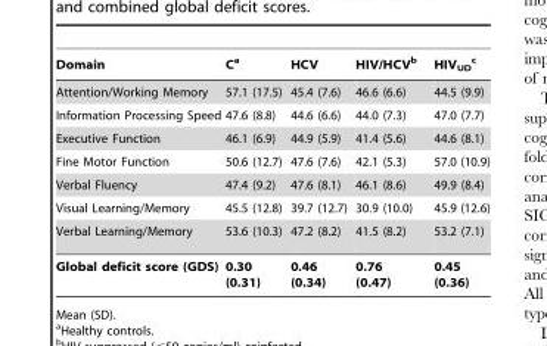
<table><thead><tr><td>Domain</td><td>C<sup>a</sup></td><td>HCV</td><td>HIV/HCV<sup>b</sup></td><td>HIV<sub>UD</sub> c</td></tr></thead><tbody><tr><td>Attention/Working Memory</td><td>57.1 (17.5)</td><td>45.4 (7.6)</td><td>46.6 (6.6)</td><td>44.5 (9.9)</td></tr><tr><td>Information Processing Speed</td><td>47.6 (8.8)</td><td>44.6 (6.6)</td><td>44.0 (7.3)</td><td>47.0 (7.7)</td></tr><tr><td>Executive Function</td><td>46.1 (6.9)</td><td>44.9 (5.9)</td><td>41.4 (5.6)</td><td>44.6 (8.1)</td></tr><tr><td>Fine Motor Function</td><td>50.6 (12.7)</td><td>47.6 (7.6)</td><td>42.1 (5.3)</td><td>57.0 (10.9)</td></tr><tr><td>Verbal Fluency</td><td>47.4 (9.2)</td><td>47.6 (8.1)</td><td>46.1 (8.6)</td><td>49.9 (8.4)</td></tr><tr><td>Visual Learning/Memory</td><td>45.5 (12.8)</td><td>39.7 (12.7)</td><td>30.9 (10.0)</td><td>45.9 (12.6)</td></tr><tr><td>Verbal Learning/Memory</td><td>53.6 (10.3)</td><td>47.2 (8.2)</td><td>41.5 (8.2)</td><td>53.2 (7.1)</td></tr><tr><td>Global deficit score (GDS)</td><td>0.30 (0.31)</td><td>0.46 (0.34)</td><td>0.76 (0.47)</td><td>0.45 (0.36)</td></tr></tbody></table>